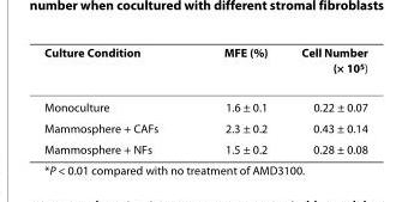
<table><thead><tr><td>Culture Condition</td><td>MFE (%)</td><td>Cell Number (× 10<sup>5</sup>)</td></tr></thead><tbody><tr><td>Monoculture</td><td>1.6 ± 0.1</td><td>0.22 ± 0.07</td></tr><tr><td>Mammosphere + CAFs</td><td>2.3 ± 0.2</td><td>0.43 ± 0.14</td></tr><tr><td>Mammosphere + NFs</td><td>1.5 ± 0.2</td><td>0.28 ± 0.08</td></tr></tbody></table>